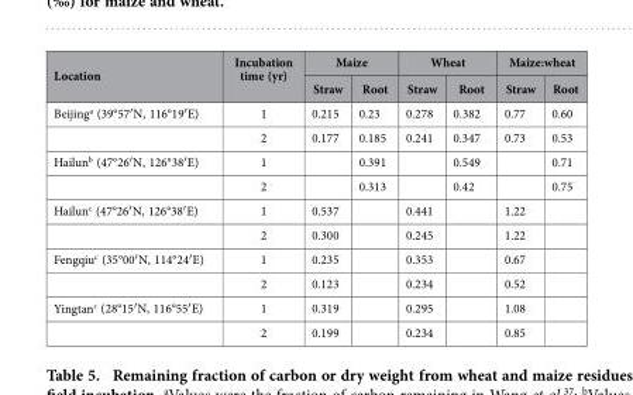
<table><thead><tr><td rowspan="2">Location</td><td rowspan="2">Incubation time (yr)</td><td colspan="2">Maize</td><td colspan="2">Wheat</td><td colspan="2">Maize:wheat</td></tr><tr><td>Straw</td><td>Root</td><td>Straw</td><td>Root</td><td>Straw</td><td>Root</td></tr></thead><tbody><tr><td rowspan="2">Beijing<sup>a</sup> (39°57′ N, 116°19′ E)</td><td>1</td><td>0.215</td><td>0.23</td><td>0.278</td><td>0.382</td><td>0.77</td><td>0.60</td></tr><tr><td>2</td><td>0.177</td><td>0.185</td><td>0.241</td><td>0.347</td><td>0.73</td><td>0.53</td></tr><tr><td rowspan="2">Hailun<sup>b</sup> (47°26′ N, 126°38′ E)</td><td>1</td><td></td><td>0.391</td><td></td><td>0.549</td><td></td><td>0.71</td></tr><tr><td>2</td><td></td><td>0.313</td><td></td><td>0.42</td><td></td><td>0.75</td></tr><tr><td rowspan="2">Hailun<sup>c</sup> (47°26′ N, 126°38′ E)</td><td>1</td><td>0.537</td><td></td><td>0.441</td><td></td><td>1.22</td><td></td></tr><tr><td>2</td><td>0.300</td><td></td><td>0.245</td><td></td><td>1.22</td><td></td></tr><tr><td rowspan="2">Fengqiu<sup>c</sup> (35°00′ N, 114°24′ E)</td><td>1</td><td>0.235</td><td></td><td>0.353</td><td></td><td>0.67</td><td></td></tr><tr><td>2</td><td>0.123</td><td></td><td>0.234</td><td></td><td>0.52</td><td></td></tr><tr><td rowspan="2">Yingtan<sup>c</sup> (28°15′ N, 116°55′ E)</td><td>1</td><td>0.319</td><td></td><td>0.295</td><td></td><td>1.08</td><td></td></tr><tr><td>2</td><td>0.199</td><td></td><td>0.234</td><td></td><td>0.85</td><td></td></tr></tbody></table>